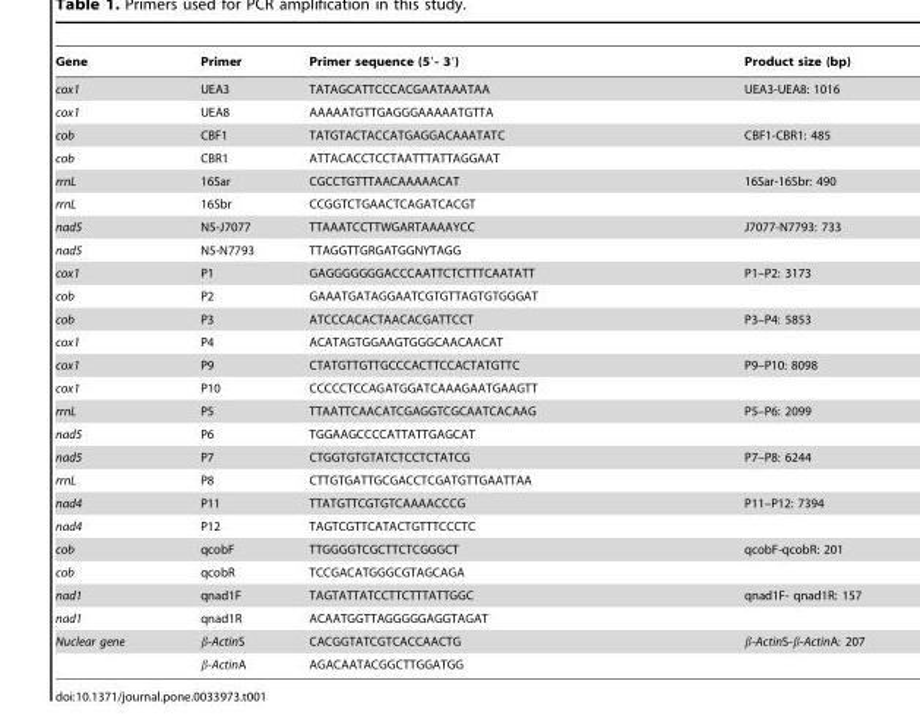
<table><thead><tr><td>Gene</td><td>Primer</td><td>Primer sequence (5′- 3′)</td><td>Product size (bp)</td></tr></thead><tbody><tr><td>cox1</td><td>UEA3</td><td>TATAGCATTCCCACGAATAAATAA</td><td>UEA3-UEA8: 1016</td></tr><tr><td>cox1</td><td>UEA8</td><td>AAAAATGTTGAGGGAAAAATGTTA</td><td></td></tr><tr><td>cob</td><td>CBF1</td><td>TATGTACTACCATGAGGACAAATATC</td><td>CBF1-CBR1: 485</td></tr><tr><td>cob</td><td>CBR1</td><td>ATTACACCTCCTAATTTATTAGGAAT</td><td></td></tr><tr><td>rrnL</td><td>16Sar</td><td>CGCCTGTTTAACAAAAACAT</td><td>16Sar-16Sbr: 490</td></tr><tr><td>rrnL</td><td>16Sbr</td><td>CCGGTCTGAACTCAGATCACGT</td><td></td></tr><tr><td>nad5</td><td>N5-J7077</td><td>TTAAATCCTTWGARTAAAAYCC</td><td>J7077-N7793: 733</td></tr><tr><td>nad5</td><td>N5-N7793</td><td>TTAGGTTGRGATGGNYTAGG</td><td></td></tr><tr><td>cox1</td><td>P1</td><td>GAGGGGGGGACCCAATTCTCTTTCAATATT</td><td>P1–P2: 3173</td></tr><tr><td>cob</td><td>P2</td><td>GAAATGATAGGAATCGTGTTAGTGTGGGAT</td><td></td></tr><tr><td>cob</td><td>P3</td><td>ATCCCACACTAACACGATTCCT</td><td>P3–P4: 5853</td></tr><tr><td>cox1</td><td>P4</td><td>ACATAGTGGAAGTGGGCAACAACAT</td><td></td></tr><tr><td>cox1</td><td>P9</td><td>CTATGTTGTTGCCCACTTCCACTATGTTC</td><td>P9–P10: 8098</td></tr><tr><td>cox1</td><td>P10</td><td>CCCCCTCCAGATGGATCAAAGAATGAAGTT</td><td></td></tr><tr><td>rrnL</td><td>P5</td><td>TTAATTCAACATCGAGGTCGCAATCACAAG</td><td>P5–P6: 2099</td></tr><tr><td>nad5</td><td>P6</td><td>TGGAAGCCCCATTATTGAGCAT</td><td></td></tr><tr><td>nad5</td><td>P7</td><td>CTGGTGTGTATCTCCTCTATCG</td><td>P7–P8: 6244</td></tr><tr><td>rrnL</td><td>P8</td><td>CTTGTGATTGCGACCTCGATGTTGAATTAA</td><td></td></tr><tr><td>nad4</td><td>P11</td><td>TTATGTTCGTGTCAAAACCCG</td><td>P11–P12: 7394</td></tr><tr><td>nad4</td><td>P12</td><td>TAGTCGTTCATACTGTTTCCCTC</td><td></td></tr><tr><td>cob</td><td>qcobF</td><td>TTGGGGTCGCTTCTCGGGCT</td><td>qcobF-qcobR: 201</td></tr><tr><td>cob</td><td>qcobR</td><td>TCCGACATGGGCGTAGCAGA</td><td></td></tr><tr><td>nad1</td><td>qnad1F</td><td>TAGTATTATCCTTCTTTATTGGC</td><td>qnad1F- qnad1R: 157</td></tr><tr><td>nad1</td><td>qnad1R</td><td>ACAATGGTTAGGGGGAGGTAGAT</td><td></td></tr><tr><td rowspan="2">Nuclear gene</td><td>β-ActinS</td><td>CACGGTATCGTCACCAACTG</td><td>β-ActinS-β-ActinA: 207</td></tr><tr><td>β-ActinA</td><td>AGACAATACGGCTTGGATGG</td><td></td></tr></tbody></table>